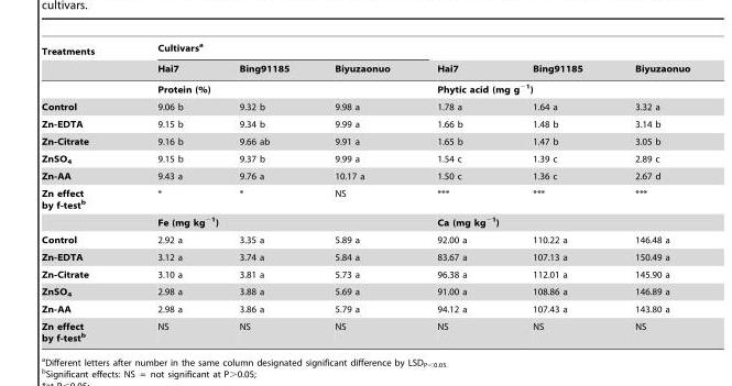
<table><thead><tr><td rowspan="2">Treatments</td><td colspan="3">Cultivars<sup>a</sup></td><td rowspan="2">Hai7</td><td rowspan="2">Bing91185</td><td rowspan="2">Biyuzaonuo</td></tr><tr><td>Hai7</td><td>Bing91185</td><td>Biyuzaonuo</td></tr></thead><tbody><tr><td></td><td colspan="3">Protein (%)</td><td colspan="3">Phytic acid (mg g<sup>−1</sup>)</td></tr><tr><td>Control</td><td>9.06 b</td><td>9.32 b</td><td>9.98 a</td><td>1.78 a</td><td>1.64 a</td><td>3.32 a</td></tr><tr><td>Zn-EDTA</td><td>9.15 b</td><td>9.34 b</td><td>9.99 a</td><td>1.66 b</td><td>1.48 b</td><td>3.14 b</td></tr><tr><td>Zn-Citrate</td><td>9.16 b</td><td>9.66 ab</td><td>9.91 a</td><td>1.65 b</td><td>1.47 b</td><td>3.05 b</td></tr><tr><td>ZnSO<sub>4</sub></td><td>9.15 b</td><td>9.37 b</td><td>9.99 a</td><td>1.54 c</td><td>1.39 c</td><td>2.89 c</td></tr><tr><td>Zn-AA</td><td>9.43 a</td><td>9.76 a</td><td>10.17 a</td><td>1.50 c</td><td>1.36 c</td><td>2.67 d</td></tr><tr><td rowspan="2">Zn effect by f-testb</td><td>*</td><td>*</td><td>NS</td><td>***</td><td>***</td><td>***</td></tr><tr><td colspan="3">Fe (mg kg<sup>−1</sup>)</td><td colspan="3">Ca (mg kg<sup>−1</sup>)</td></tr><tr><td>Control</td><td>2.92 a</td><td>3.35 a</td><td>5.89 a</td><td>92.00 a</td><td>110.22 a</td><td>146.48 a</td></tr><tr><td>Zn-EDTA</td><td>3.12 a</td><td>3.74 a</td><td>5.84 a</td><td>83.67 a</td><td>107.13 a</td><td>150.49 a</td></tr><tr><td>Zn-Citrate</td><td>3.10 a</td><td>3.81 a</td><td>5.73 a</td><td>96.38 a</td><td>112.01 a</td><td>145.90 a</td></tr><tr><td>ZnSO<sub>4</sub></td><td>2.98 a</td><td>3.88 a</td><td>5.69 a</td><td>91.00 a</td><td>108.86 a</td><td>146.89 a</td></tr><tr><td>Zn-AA</td><td>2.98 a</td><td>3.86 a</td><td>5.79 a</td><td>94.12 a</td><td>107.43 a</td><td>143.80 a</td></tr><tr><td>Zn effect by f-testb</td><td>NS</td><td>NS</td><td>NS</td><td>NS</td><td>NS</td><td>NS</td></tr></tbody></table>